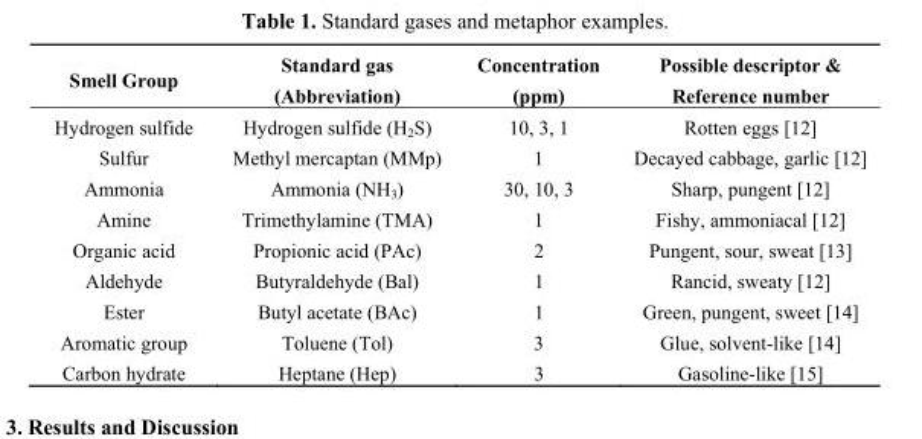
<table><thead><tr><td>Smell Group</td><td>Standard gas (Abbreviation)</td><td>Concentration (ppm)</td><td>Possible descriptor &amp; Reference number</td></tr></thead><tbody><tr><td>Hydrogen sulfide</td><td>Hydrogen sulfide (H<sub>2</sub>S)</td><td>10, 3, 1</td><td>Rotten eggs [12]</td></tr><tr><td>Sulfur</td><td>Methyl mercaptan (MMp)</td><td>1</td><td>Decayed cabbage, garlic [12]</td></tr><tr><td>Ammonia</td><td>Ammonia (NH<sub>3</sub>)</td><td>30, 10, 3</td><td>Sharp, pungent [12]</td></tr><tr><td>Amine</td><td>Trimethylamine (TMA)</td><td>1</td><td>Fishy, ammoniacal [12]</td></tr><tr><td>Organic acid</td><td>Propionic acid (PAc)</td><td>2</td><td>Pungent, sour, sweat [13]</td></tr><tr><td>Aldehyde</td><td>Butyraldehyde (Bal)</td><td>1</td><td>Rancid, sweaty [12]</td></tr><tr><td>Ester</td><td>Butyl acetate (BAc)</td><td>1</td><td>Green, pungent, sweet [14]</td></tr><tr><td>Aromatic group</td><td>Toluene (Tol)</td><td>3</td><td>Glue, solvent-like [14]</td></tr><tr><td>Carbon hydrate</td><td>Heptane (Hep)</td><td>3</td><td>Gasoline-like [15]</td></tr></tbody></table>